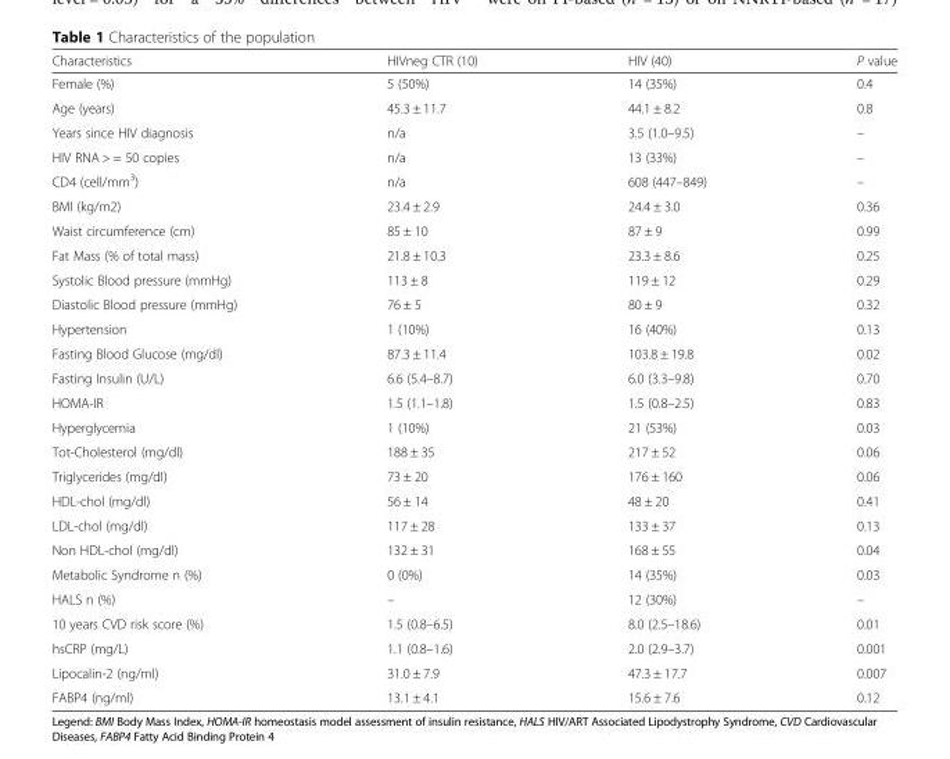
<table><thead><tr><td>Characteristics</td><td>HIVneg CTR (10)</td><td>HIV (40)</td><td>P value</td></tr></thead><tbody><tr><td>Female (%)</td><td>5 (50%)</td><td>14 (35%)</td><td>0.4</td></tr><tr><td>Age (years)</td><td>45.3 ± 11.7</td><td>44.1 ± 8.2</td><td>0.8</td></tr><tr><td>Years since HIV diagnosis</td><td>n/a</td><td>3.5 (1.0–9.5)</td><td>–</td></tr><tr><td>HIV RNA &gt; = 50 copies</td><td>n/a</td><td>13 (33%)</td><td>–</td></tr><tr><td>CD4 (cell/mm<sup>3</sup>)</td><td>n/a</td><td>608 (447–849)</td><td>–</td></tr><tr><td>BMI (kg/m2)</td><td>23.4 ± 2.9</td><td>24.4 ± 3.0</td><td>0.36</td></tr><tr><td>Waist circumference (cm)</td><td>85 ± 10</td><td>87 ± 9</td><td>0.99</td></tr><tr><td>Fat Mass (% of total mass)</td><td>21.8 ± 10.3</td><td>23.3 ± 8.6</td><td>0.25</td></tr><tr><td>Systolic Blood pressure (mmHg)</td><td>113 ± 8</td><td>119 ± 12</td><td>0.29</td></tr><tr><td>Diastolic Blood pressure (mmHg)</td><td>76 ± 5</td><td>80 ± 9</td><td>0.32</td></tr><tr><td>Hypertension</td><td>1 (10%)</td><td>16 (40%)</td><td>0.13</td></tr><tr><td>Fasting Blood Glucose (mg/dl)</td><td>87.3 ± 11.4</td><td>103.8 ± 19.8</td><td>0.02</td></tr><tr><td>Fasting Insulin (U/L)</td><td>6.6 (5.4–8.7)</td><td>6.0 (3.3–9.8)</td><td>0.70</td></tr><tr><td>HOMA-IR</td><td>1.5 (1.1–1.8)</td><td>1.5 (0.8–2.5)</td><td>0.83</td></tr><tr><td>Hyperglycemia</td><td>1 (10%)</td><td>21 (53%)</td><td>0.03</td></tr><tr><td>Tot-Cholesterol (mg/dl)</td><td>188 ± 35</td><td>217 ± 52</td><td>0.06</td></tr><tr><td>Triglycerides (mg/dl)</td><td>73 ± 20</td><td>176 ± 160</td><td>0.06</td></tr><tr><td>HDL-chol (mg/dl)</td><td>56 ± 14</td><td>48 ± 20</td><td>0.41</td></tr><tr><td>LDL-chol (mg/dl)</td><td>117 ± 28</td><td>133 ± 37</td><td>0.13</td></tr><tr><td>Non HDL-chol (mg/dl)</td><td>132 ± 31</td><td>168 ± 55</td><td>0.04</td></tr><tr><td>Metabolic Syndrome n (%)</td><td>0 (0%)</td><td>14 (35%)</td><td>0.03</td></tr><tr><td>HALS n (%)</td><td>–</td><td>12 (30%)</td><td>–</td></tr><tr><td>10 years CVD risk score (%)</td><td>1.5 (0.8–6.5)</td><td>8.0 (2.5–18.6)</td><td>0.01</td></tr><tr><td>hsCRP (mg/L)</td><td>1.1 (0.8–1.6)</td><td>2.0 (2.9–3.7)</td><td>0.001</td></tr><tr><td>Lipocalin-2 (ng/ml)</td><td>31.0 ± 7.9</td><td>47.3 ± 17.7</td><td>0.007</td></tr><tr><td>FABP4 (ng/ml)</td><td>13.1 ± 4.1</td><td>15.6 ± 7.6</td><td>0.12</td></tr></tbody></table>